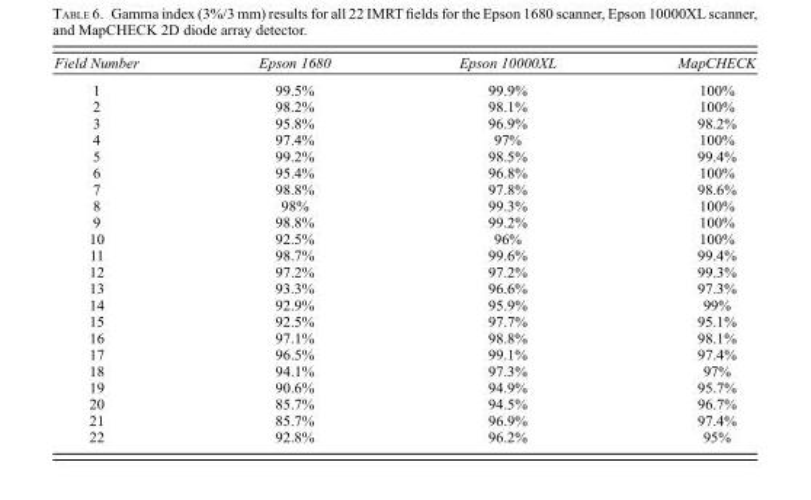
<table><thead><tr><td>Field Number</td><td>Epson 1680</td><td>Epson 10000XL</td><td>MapCHECK</td></tr></thead><tbody><tr><td>1</td><td>99.5%</td><td>99.9%</td><td>100%</td></tr><tr><td>2</td><td>98.2%</td><td>98.1%</td><td>100%</td></tr><tr><td>3</td><td>95.8%</td><td>96.9%</td><td>98.2%</td></tr><tr><td>4</td><td>97.4%</td><td>97%</td><td>100%</td></tr><tr><td>5</td><td>99.2%</td><td>98.5%</td><td>99.4%</td></tr><tr><td>6</td><td>95.4%</td><td>96.8%</td><td>100%</td></tr><tr><td>7</td><td>98.8%</td><td>97.8%</td><td>98.6%</td></tr><tr><td>8</td><td>98%</td><td>99.3%</td><td>100%</td></tr><tr><td>9</td><td>98.8%</td><td>99.2%</td><td>100%</td></tr><tr><td>10</td><td>92.5%</td><td>96%</td><td>100%</td></tr><tr><td>11</td><td>98.7%</td><td>99.6%</td><td>99.4%</td></tr><tr><td>12</td><td>97.2%</td><td>97.2%</td><td>99.3%</td></tr><tr><td>13</td><td>93.3%</td><td>96.6%</td><td>97.3%</td></tr><tr><td>14</td><td>92.9%</td><td>95.9%</td><td>99%</td></tr><tr><td>15</td><td>92.5%</td><td>97.7%</td><td>95.1%</td></tr><tr><td>16</td><td>97.1%</td><td>98.8%</td><td>98.1%</td></tr><tr><td>17</td><td>96.5%</td><td>99.1%</td><td>97.4%</td></tr><tr><td>18</td><td>94.1%</td><td>97.3%</td><td>97%</td></tr><tr><td>19</td><td>90.6%</td><td>94.9%</td><td>95.7%</td></tr><tr><td>20</td><td>85.7%</td><td>94.5%</td><td>96.7%</td></tr><tr><td>21</td><td>85.7%</td><td>96.9%</td><td>97.4%</td></tr><tr><td>22</td><td>92.8%</td><td>96.2%</td><td>95%</td></tr></tbody></table>